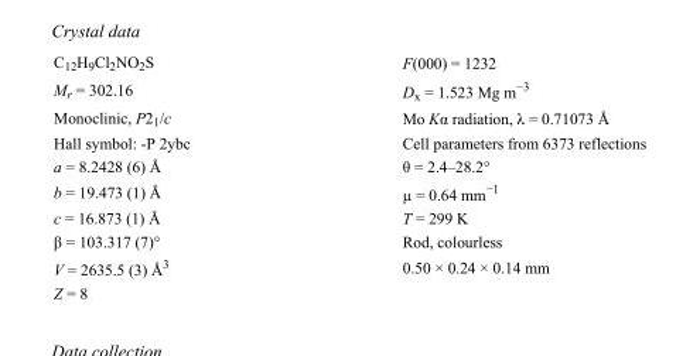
<table><tbody><tr><td>C<sub>12</sub>H<sub>9</sub>Cl<sub>2</sub>NO<sub>2</sub>S</td><td>F(000) = 1232</td></tr><tr><td>M<sub>r</sub> = 302.16</td><td>D<sub>x</sub> = 1.523 Mg m<sup>−3</sup></td></tr><tr><td>Monoclinic, P2<sub>1</sub>/c</td><td>Mo Kα radiation, λ = 0.71073 Å</td></tr><tr><td>Hall symbol: -P 2ybc</td><td>Cell parameters from 6373 reflections</td></tr><tr><td>a = 8.2428 (6) Å</td><td>θ = 2.4–28.2°</td></tr><tr><td>b = 19.473 (1) Å</td><td>µ = 0.64 mm<sup>−1</sup></td></tr><tr><td>c = 16.873 (1) Å</td><td>T = 299 K</td></tr><tr><td>β = 103.317 (7)°</td><td>Rod, colourless</td></tr><tr><td>V = 2635.5 (3) Å<sup>3</sup></td><td>0.50 × 0.24 × 0.14 mm</td></tr><tr><td>Z = 8</td><td></td></tr></tbody></table>